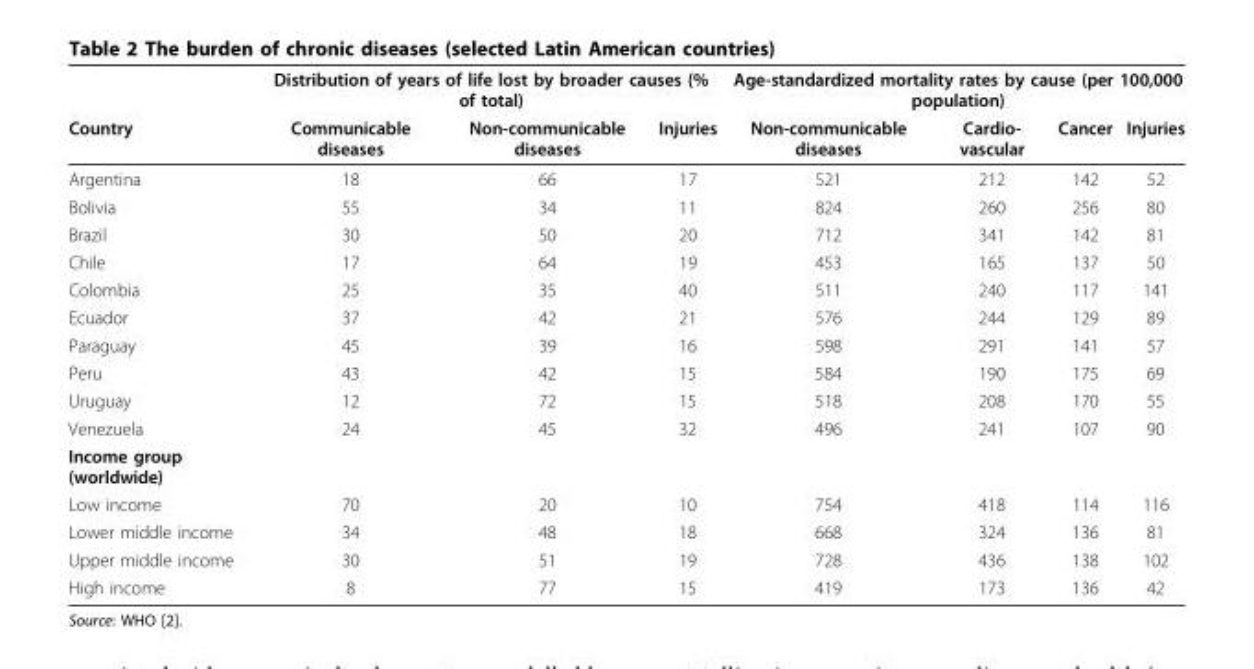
<table><thead><tr><td rowspan="2">Country</td><td colspan="3">Distribution of years of life lost by broader causes (% of total)</td><td colspan="4">Age-standardized mortality rates by cause (per 100,000 population)</td></tr><tr><td>Communicable diseases</td><td>Non-communicable diseases</td><td>Injuries</td><td>Non-communicable diseases</td><td>Cardio- vascular</td><td>Cancer</td><td>Injuries</td></tr></thead><tbody><tr><td>Argentina</td><td>18</td><td>66</td><td>17</td><td>521</td><td>212</td><td>142</td><td>52</td></tr><tr><td>Bolivia</td><td>55</td><td>34</td><td>11</td><td>824</td><td>260</td><td>256</td><td>80</td></tr><tr><td>Brazil</td><td>30</td><td>50</td><td>20</td><td>712</td><td>341</td><td>142</td><td>81</td></tr><tr><td>Chile</td><td>17</td><td>64</td><td>19</td><td>453</td><td>165</td><td>137</td><td>50</td></tr><tr><td>Colombia</td><td>25</td><td>35</td><td>40</td><td>511</td><td>240</td><td>117</td><td>141</td></tr><tr><td>Ecuador</td><td>37</td><td>42</td><td>21</td><td>576</td><td>244</td><td>129</td><td>89</td></tr><tr><td>Paraguay</td><td>45</td><td>39</td><td>16</td><td>598</td><td>291</td><td>141</td><td>57</td></tr><tr><td>Peru</td><td>43</td><td>42</td><td>15</td><td>584</td><td>190</td><td>175</td><td>69</td></tr><tr><td>Uruguay</td><td>12</td><td>72</td><td>15</td><td>518</td><td>208</td><td>170</td><td>55</td></tr><tr><td>Venezuela</td><td>24</td><td>45</td><td>32</td><td>496</td><td>241</td><td>107</td><td>90</td></tr><tr><td colspan="8">Income group (worldwide)</td></tr><tr><td>Low income</td><td>70</td><td>20</td><td>10</td><td>754</td><td>418</td><td>114</td><td>116</td></tr><tr><td>Lower middle income</td><td>34</td><td>48</td><td>18</td><td>668</td><td>324</td><td>136</td><td>81</td></tr><tr><td>Upper middle income</td><td>30</td><td>51</td><td>19</td><td>728</td><td>436</td><td>138</td><td>102</td></tr><tr><td>High income</td><td>8</td><td>77</td><td>15</td><td>419</td><td>173</td><td>136</td><td>42</td></tr></tbody></table>